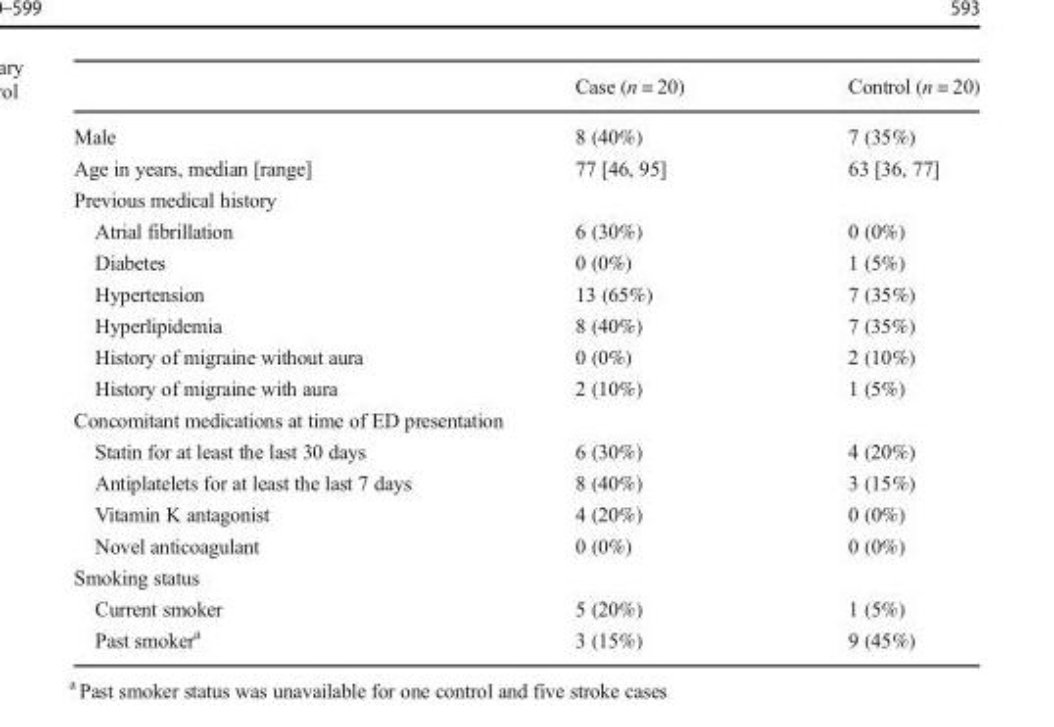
<table><thead><tr><td></td><td>Case (n = 20)</td><td>Control (n = 20)</td></tr></thead><tbody><tr><td>Male</td><td>8 (40%)</td><td>7 (35%)</td></tr><tr><td>Age in years, median [range]</td><td>77 [46, 95]</td><td>63 [36, 77]</td></tr><tr><td colspan="3">Previous medical history</td></tr><tr><td>Atrial fibrillation</td><td>6 (30%)</td><td>0 (0%)</td></tr><tr><td>Diabetes</td><td>0 (0%)</td><td>1 (5%)</td></tr><tr><td>Hypertension</td><td>13 (65%)</td><td>7 (35%)</td></tr><tr><td>Hyperlipidemia</td><td>8 (40%)</td><td>7 (35%)</td></tr><tr><td>History of migraine without aura</td><td>0 (0%)</td><td>2 (10%)</td></tr><tr><td>History of migraine with aura</td><td>2 (10%)</td><td>1 (5%)</td></tr><tr><td colspan="3">Concomitant medications at time of ED presentation</td></tr><tr><td>Statin for at least the last 30 days</td><td>6 (30%)</td><td>4 (20%)</td></tr><tr><td>Antiplatelets for at least the last 7 days</td><td>8 (40%)</td><td>3 (15%)</td></tr><tr><td>Vitamin K antagonist</td><td>4 (20%)</td><td>0 (0%)</td></tr><tr><td>Novel anticoagulant</td><td>0 (0%)</td><td>0 (0%)</td></tr><tr><td colspan="3">Smoking status</td></tr><tr><td>Current smoker</td><td>5 (20%)</td><td>1 (5%)</td></tr><tr><td>Past smoker<sup>a</sup></td><td>3 (15%)</td><td>9 (45%)</td></tr></tbody></table>